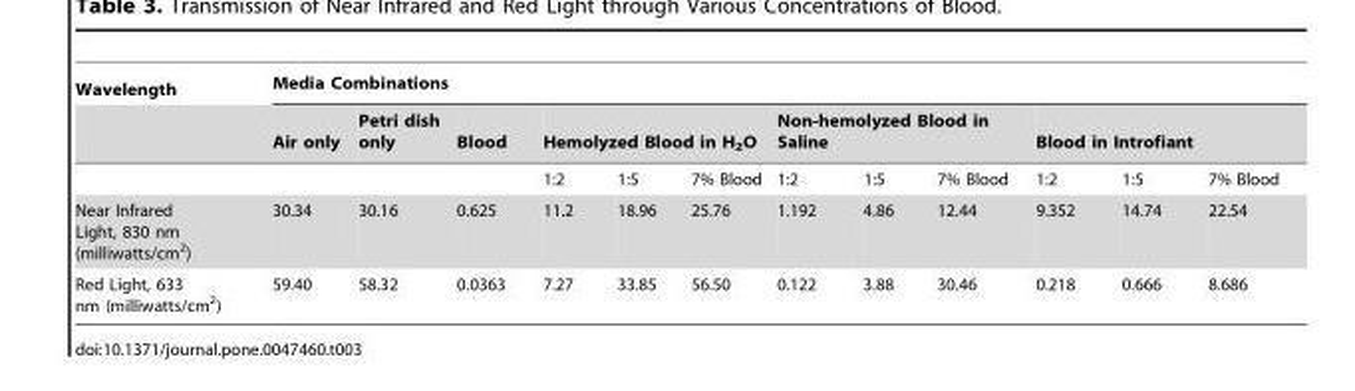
<table><thead><tr><td rowspan="3">Wavelength</td><td colspan="12">Media Combinations</td></tr><tr><td rowspan="2">Air only</td><td rowspan="2">Petri dish only</td><td rowspan="2">Blood</td><td colspan="3">Hemolyzed Blood in H<sub>2</sub>O</td><td colspan="3">Non-hemolyzed Blood in Saline</td><td colspan="3">Blood in Introfiant</td></tr><tr><td>1:2</td><td>1:5</td><td>7% Blood</td><td>1:2</td><td>1:5</td><td>7% Blood</td><td>1:2</td><td>1:5</td><td>7% Blood</td></tr></thead><tbody><tr><td>Near Infrared Light, 830 nm (milliwatts/cm<sup>2</sup>)</td><td>30.34</td><td>30.16</td><td>0.625</td><td>11.2</td><td>18.96</td><td>25.76</td><td>1.192</td><td>4.86</td><td>12.44</td><td>9.352</td><td>14.74</td><td>22.54</td></tr><tr><td>Red Light, 633 nm (milliwatts/cm<sup>2</sup>)</td><td>59.40</td><td>58.32</td><td>0.0363</td><td>7.27</td><td>33.85</td><td>56.50</td><td>0.122</td><td>3.88</td><td>30.46</td><td>0.218</td><td>0.666</td><td>8.686</td></tr></tbody></table>